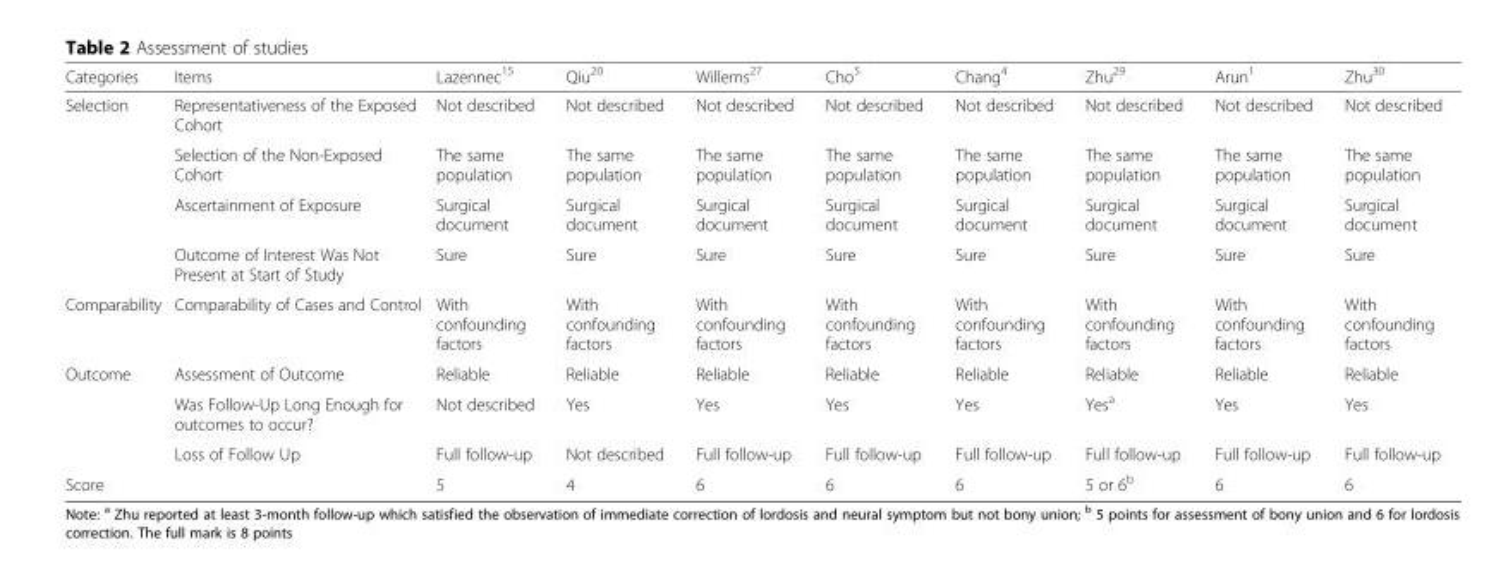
<table><thead><tr><td>Categories</td><td>Items</td><td>Lazennec<sup>15</sup></td><td>Qiu<sup>20</sup></td><td>Willems<sup>27</sup></td><td>Cho<sup>5</sup></td><td>Chang<sup>4</sup></td><td>Zhu<sup>29</sup></td><td>Arun<sup>1</sup></td><td>Zhu<sup>30</sup></td></tr></thead><tbody><tr><td rowspan="4">Selection</td><td>Representativeness of the Exposed Cohort</td><td>Not described</td><td>Not described</td><td>Not described</td><td>Not described</td><td>Not described</td><td>Not described</td><td>Not described</td><td>Not described</td></tr><tr><td>Selection of the Non-Exposed Cohort</td><td>The same population</td><td>The same population</td><td>The same population</td><td>The same population</td><td>The same population</td><td>The same population</td><td>The same population</td><td>The same population</td></tr><tr><td>Ascertainment of Exposure</td><td>Surgical document</td><td>Surgical document</td><td>Surgical document</td><td>Surgical document</td><td>Surgical document</td><td>Surgical document</td><td>Surgical document</td><td>Surgical document</td></tr><tr><td>Outcome of Interest Was Not Present at Start of Study</td><td>Sure</td><td>Sure</td><td>Sure</td><td>Sure</td><td>Sure</td><td>Sure</td><td>Sure</td><td>Sure</td></tr><tr><td>Comparability</td><td>Comparability of Cases and Control</td><td>With confounding factors</td><td>With confounding factors</td><td>With confounding factors</td><td>With confounding factors</td><td>With confounding factors</td><td>With confounding factors</td><td>With confounding factors</td><td>With confounding factors</td></tr><tr><td rowspan="3">Outcome</td><td>Assessment of Outcome</td><td>Reliable</td><td>Reliable</td><td>Reliable</td><td>Reliable</td><td>Reliable</td><td>Reliable</td><td>Reliable</td><td>Reliable</td></tr><tr><td>Was Follow-Up Long Enough for outcomes to occur?</td><td>Not described</td><td>Yes</td><td>Yes</td><td>Yes</td><td>Yes</td><td>Yes<sup>a</sup></td><td>Yes</td><td>Yes</td></tr><tr><td>Loss of Follow Up</td><td>Full follow-up</td><td>Not described</td><td>Full follow-up</td><td>Full follow-up</td><td>Full follow-up</td><td>Full follow-up</td><td>Full follow-up</td><td>Full follow-up</td></tr><tr><td>Score</td><td></td><td>5</td><td>4</td><td>6</td><td>6</td><td>6</td><td>5 or 6<sup>b</sup></td><td>6</td><td>6</td></tr></tbody></table>